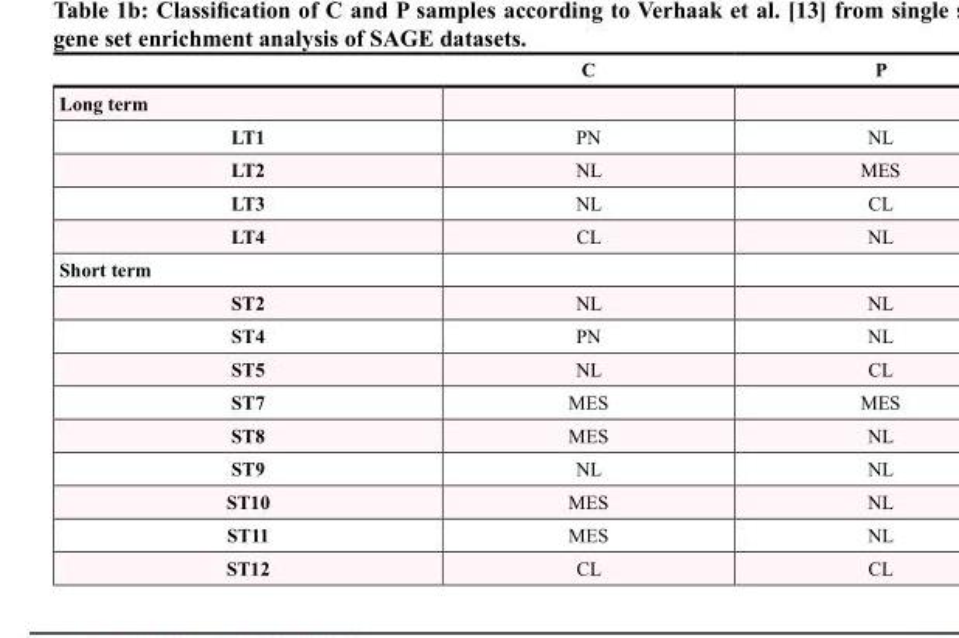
<table><thead><tr><td></td><td>C</td><td>P</td></tr></thead><tbody><tr><td colspan="3">Long term</td></tr><tr><td>LT1</td><td>PN</td><td>NL</td></tr><tr><td>LT2</td><td>NL</td><td>MES</td></tr><tr><td>LT3</td><td>NL</td><td>CL</td></tr><tr><td>LT4</td><td>CL</td><td>NL</td></tr><tr><td colspan="3">Short term</td></tr><tr><td>ST2</td><td>NL</td><td>NL</td></tr><tr><td>ST4</td><td>PN</td><td>NL</td></tr><tr><td>ST5</td><td>NL</td><td>CL</td></tr><tr><td>ST7</td><td>MES</td><td>MES</td></tr><tr><td>ST8</td><td>MES</td><td>NL</td></tr><tr><td>ST9</td><td>NL</td><td>NL</td></tr><tr><td>ST10</td><td>MES</td><td>NL</td></tr><tr><td>ST11</td><td>MES</td><td>NL</td></tr><tr><td>ST12</td><td>CL</td><td>CL</td></tr></tbody></table>